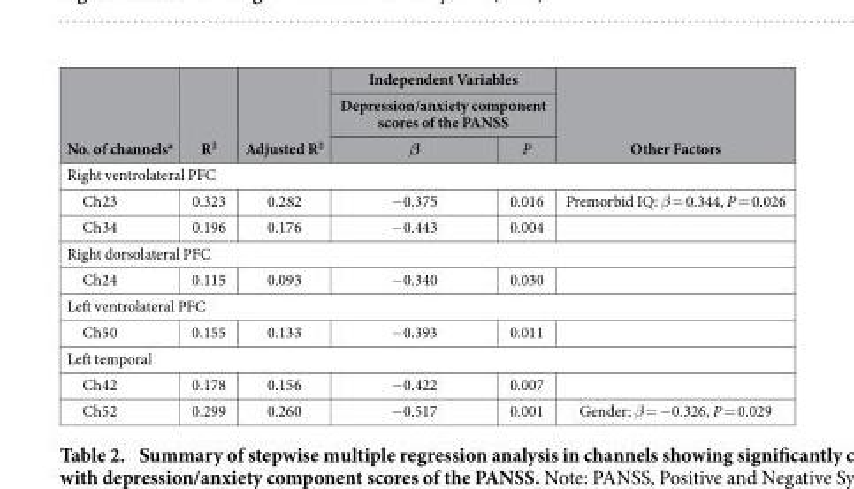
<table><thead><tr><td rowspan="3">No. of channels<sup>a</sup></td><td rowspan="3">R<sup>2</sup></td><td rowspan="3">Adjusted R<sup>2</sup></td><td rowspan="2" colspan="2">Independent Variables Depression/anxiety component scores of the PANSS</td><td rowspan="3">Other Factors</td></tr><tr></tr><tr><td>β</td><td>P</td></tr></thead><tbody><tr><td colspan="6">Right ventrolateral PFC</td></tr><tr><td>Ch23</td><td>0.323</td><td>0.282</td><td>− 0.375</td><td>0.016</td><td>Premorbid IQ: β = 0.344, P = 0.026</td></tr><tr><td>Ch34</td><td>0.196</td><td>0.176</td><td>− 0.443</td><td>0.004</td><td></td></tr><tr><td colspan="6">Right dorsolateral PFC</td></tr><tr><td>Ch24</td><td>0.115</td><td>0.093</td><td>− 0.340</td><td>0.030</td><td></td></tr><tr><td colspan="6">Left ventrolateral PFC</td></tr><tr><td>Ch50</td><td>0.155</td><td>0.133</td><td>− 0.393</td><td>0.011</td><td></td></tr><tr><td colspan="6">Left temporal</td></tr><tr><td>Ch42</td><td>0.178</td><td>0.156</td><td>− 0.422</td><td>0.007</td><td></td></tr><tr><td>Ch52</td><td>0.299</td><td>0.260</td><td>− 0.517</td><td>0.001</td><td>Gender: β = − 0.326, P = 0.029</td></tr></tbody></table>